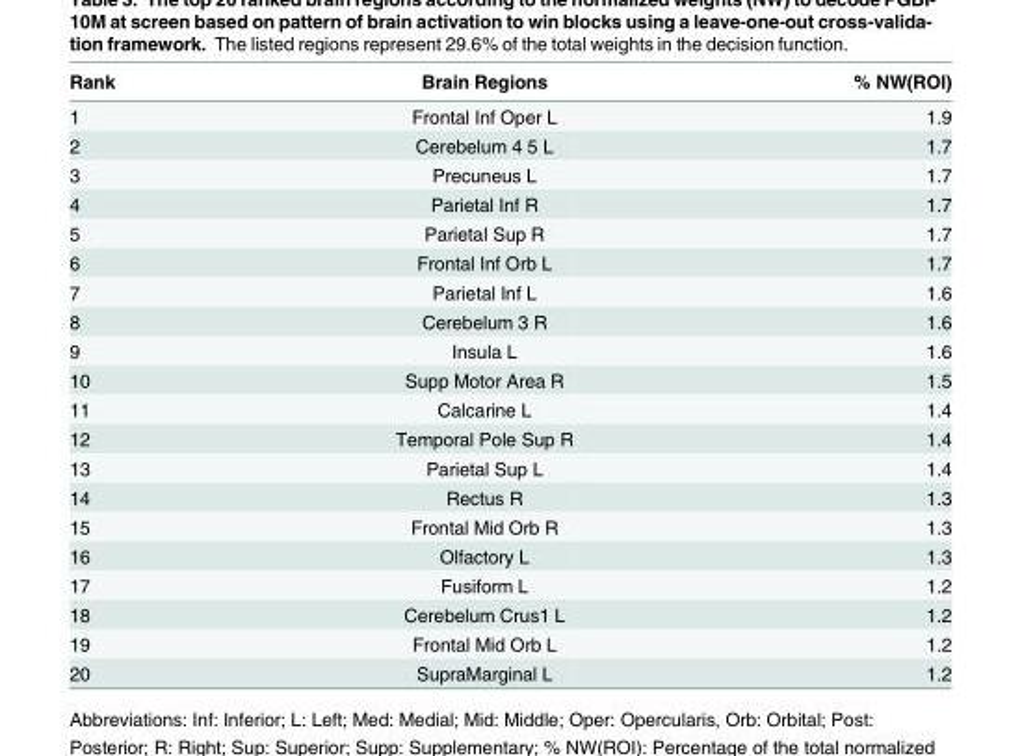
<table><thead><tr><td>Rank</td><td>Brain Regions</td><td>% NW(ROI)</td></tr></thead><tbody><tr><td>1</td><td>Frontal Inf Oper L</td><td>1.9</td></tr><tr><td>2</td><td>Cerebelum 4 5 L</td><td>1.7</td></tr><tr><td>3</td><td>Precuneus L</td><td>1.7</td></tr><tr><td>4</td><td>Parietal Inf R</td><td>1.7</td></tr><tr><td>5</td><td>Parietal Sup R</td><td>1.7</td></tr><tr><td>6</td><td>Frontal Inf Orb L</td><td>1.7</td></tr><tr><td>7</td><td>Parietal Inf L</td><td>1.6</td></tr><tr><td>8</td><td>Cerebelum 3 R</td><td>1.6</td></tr><tr><td>9</td><td>Insula L</td><td>1.6</td></tr><tr><td>10</td><td>Supp Motor Area R</td><td>1.5</td></tr><tr><td>11</td><td>Calcarine L</td><td>1.4</td></tr><tr><td>12</td><td>Temporal Pole Sup R</td><td>1.4</td></tr><tr><td>13</td><td>Parietal Sup L</td><td>1.4</td></tr><tr><td>14</td><td>Rectus R</td><td>1.3</td></tr><tr><td>15</td><td>Frontal Mid Orb R</td><td>1.3</td></tr><tr><td>16</td><td>Olfactory L</td><td>1.3</td></tr><tr><td>17</td><td>Fusiform L</td><td>1.2</td></tr><tr><td>18</td><td>Cerebelum Crus1 L</td><td>1.2</td></tr><tr><td>19</td><td>Frontal Mid Orb L</td><td>1.2</td></tr><tr><td>20</td><td>SupraMarginal L</td><td>1.2</td></tr></tbody></table>